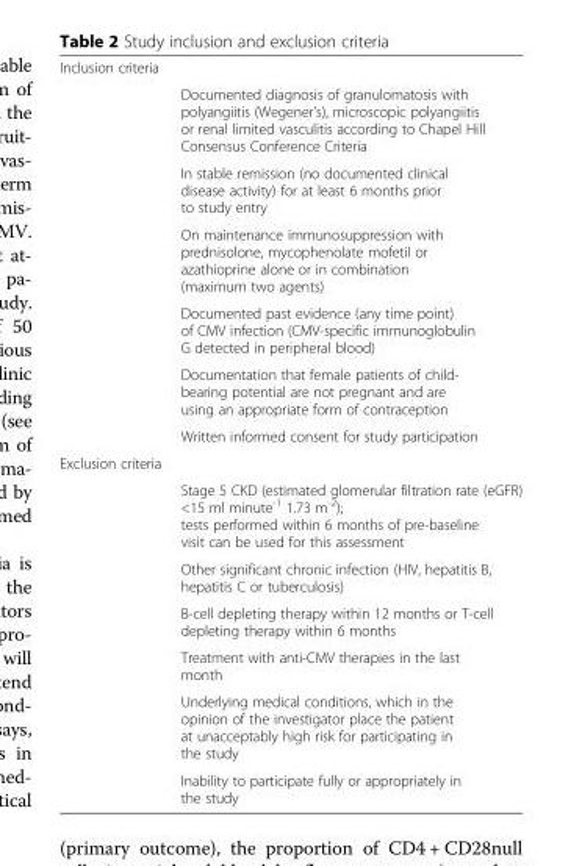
<table><tbody><tr><td colspan="2">Inclusion criteria</td></tr><tr><td></td><td>Documented diagnosis of granulomatosis with polyangiitis (Wegener’s), microscopic polyangiitis or renal limited vasculitis according to Chapel Hill Consensus Conference Criteria</td></tr><tr><td></td><td>In stable remission (no documented clinical disease activity) for at least 6 months prior to study entry</td></tr><tr><td></td><td>On maintenance immunosuppression with prednisolone, mycophenolate mofetil or azathioprine alone or in combination (maximum two agents)</td></tr><tr><td></td><td>Documented past evidence (any time point) of CMV infection (CMV-specific immunoglobulin G detected in peripheral blood)</td></tr><tr><td></td><td>Documentation that female patients of child- bearing potential are not pregnant and are using an appropriate form of contraception</td></tr><tr><td></td><td>Written informed consent for study participation</td></tr><tr><td colspan="2">Exclusion criteria</td></tr><tr><td></td><td>Stage 5 CKD (estimated glomerular filtration rate (eGFR) &lt;15 ml minute<sup>-1</sup> 1.73 m<sup>-2</sup>); tests performed within 6 months of pre-baseline visit can be used for this assessment</td></tr><tr><td></td><td>Other significant chronic infection (HIV, hepatitis B, hepatitis C or tuberculosis)</td></tr><tr><td></td><td>B-cell depleting therapy within 12 months or T-cell depleting therapy within 6 months</td></tr><tr><td></td><td>Treatment with anti-CMV therapies in the last month</td></tr><tr><td></td><td>Underlying medical conditions, which in the opinion of the investigator place the patient at unacceptably high risk for participating in the study</td></tr><tr><td></td><td>Inability to participate fully or appropriately in the study</td></tr></tbody></table>